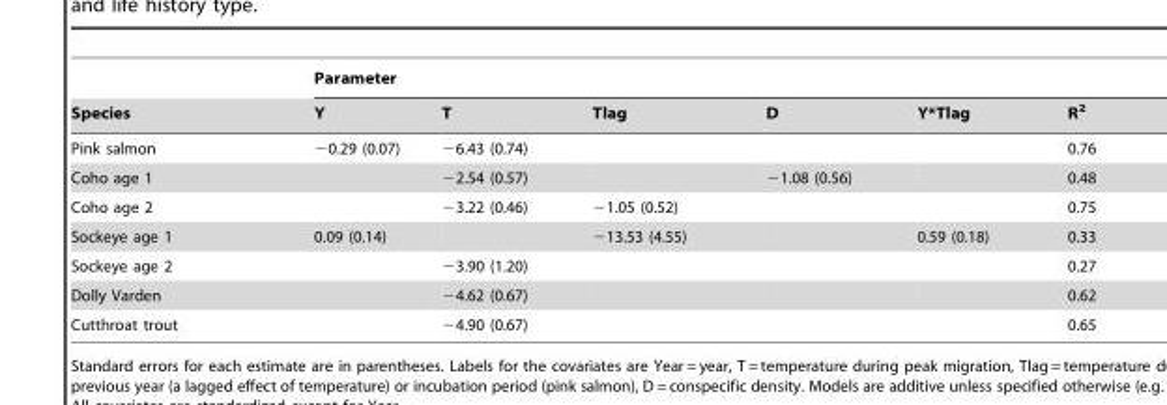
<table><thead><tr><td rowspan="2">Species</td><td colspan="6">Parameter</td></tr><tr><td>Y</td><td>T</td><td>Tlag</td><td>D</td><td>Y*Tlag</td><td>R<sup>2</sup></td></tr></thead><tbody><tr><td>Pink salmon</td><td>−0.29 (0.07)</td><td>−6.43 (0.74)</td><td></td><td></td><td></td><td>0.76</td></tr><tr><td>Coho age 1</td><td></td><td>−2.54 (0.57)</td><td></td><td>−1.08 (0.56)</td><td></td><td>0.48</td></tr><tr><td>Coho age 2</td><td></td><td>−3.22 (0.46)</td><td>−1.05 (0.52)</td><td></td><td></td><td>0.75</td></tr><tr><td>Sockeye age 1</td><td>0.09 (0.14)</td><td></td><td>−13.53 (4.55)</td><td></td><td>0.59 (0.18)</td><td>0.33</td></tr><tr><td>Sockeye age 2</td><td></td><td>−3.90 (1.20)</td><td></td><td></td><td></td><td>0.27</td></tr><tr><td>Dolly Varden</td><td></td><td>−4.62 (0.67)</td><td></td><td></td><td></td><td>0.62</td></tr><tr><td>Cutthroat trout</td><td></td><td>−4.90 (0.67)</td><td></td><td></td><td></td><td>0.65</td></tr></tbody></table>